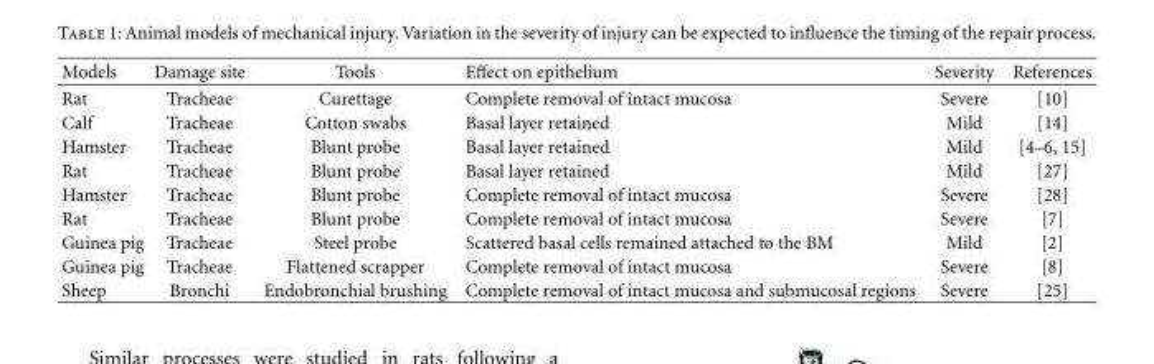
<table><thead><tr><td>Models</td><td>Damage site</td><td>Tools</td><td>Effect on epithelium</td><td>Severity</td><td>References</td></tr></thead><tbody><tr><td>Rat</td><td>Tracheae</td><td>Curettage</td><td>Complete removal of intact mucosa</td><td>Severe</td><td>[10]</td></tr><tr><td>Calf</td><td>Tracheae</td><td>Cotton swabs</td><td>Basal layer retained</td><td>Mild</td><td>[14]</td></tr><tr><td>Hamster</td><td>Tracheae</td><td>Blunt probe</td><td>Basal layer retained</td><td>Mild</td><td>[4–6, 15]</td></tr><tr><td>Rat</td><td>Tracheae</td><td>Blunt probe</td><td>Basal layer retained</td><td>Mild</td><td>[27]</td></tr><tr><td>Hamster</td><td>Tracheae</td><td>Blunt probe</td><td>Complete removal of intact mucosa</td><td>Severe</td><td>[28]</td></tr><tr><td>Rat</td><td>Tracheae</td><td>Blunt probe</td><td>Complete removal of intact mucosa</td><td>Severe</td><td>[7]</td></tr><tr><td>Guinea pig</td><td>Tracheae</td><td>Steel probe</td><td>Scattered basal cells remained attached to the BM</td><td>Mild</td><td>[2]</td></tr><tr><td>Guinea pig</td><td>Tracheae</td><td>Flattened scrapper</td><td>Complete removal of intact mucosa</td><td>Severe</td><td>[8]</td></tr><tr><td>Sheep</td><td>Bronchi</td><td>Endobronchial brushing</td><td>Complete removal of intact mucosa and submucosal regions</td><td>Severe</td><td>[25]</td></tr></tbody></table>